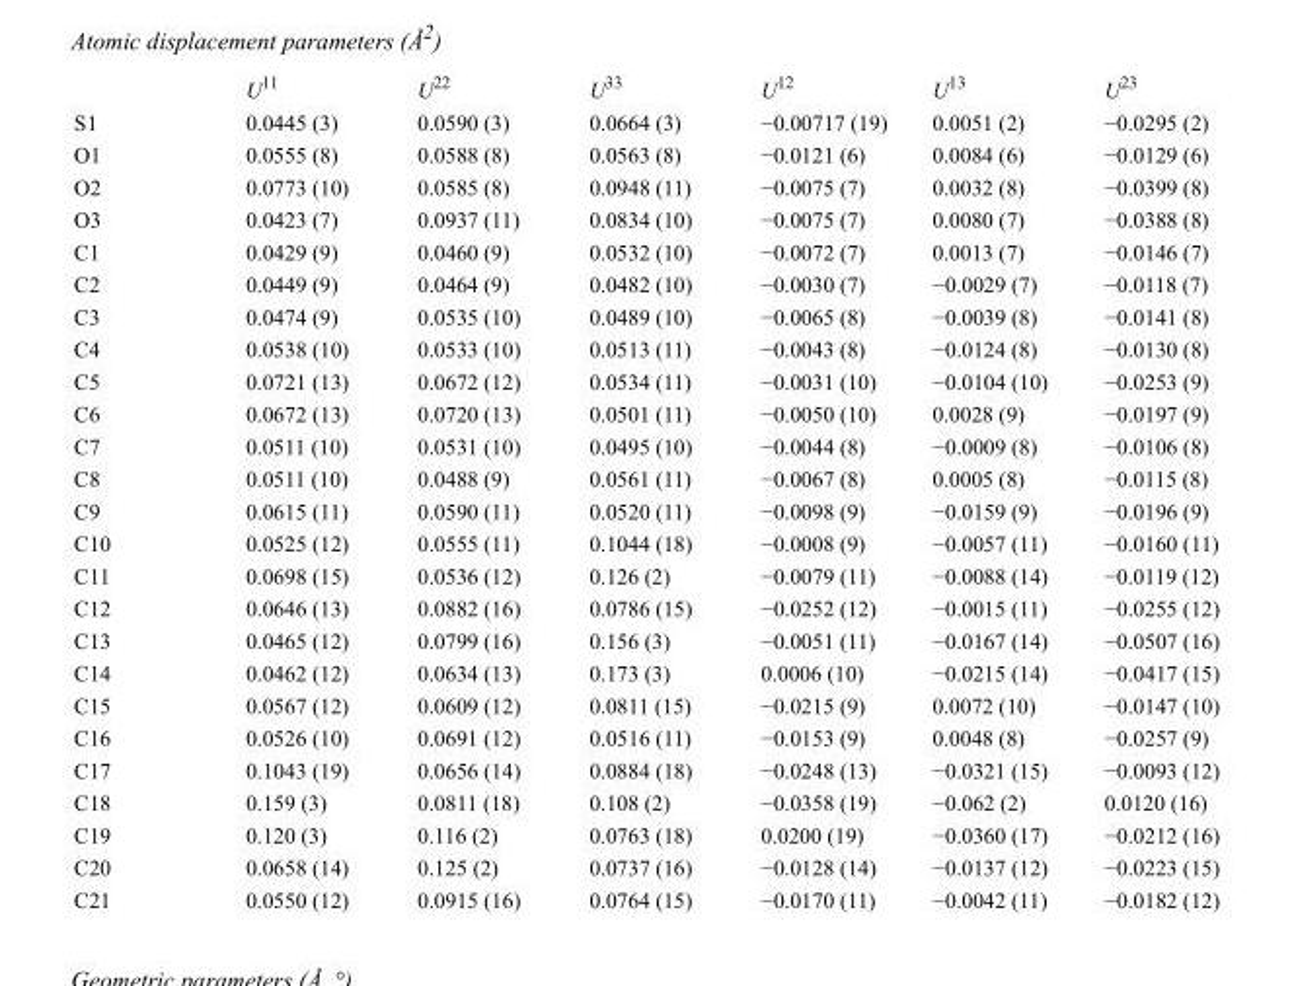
<table><thead><tr><td></td><td>U<sup>11</sup></td><td>U<sup>22</sup></td><td>U<sup>33</sup></td><td>U<sup>12</sup></td><td>U<sup>13</sup></td><td>U<sup>23</sup></td></tr></thead><tbody><tr><td>S1</td><td>0.0445 (3)</td><td>0.0590 (3)</td><td>0.0664 (3)</td><td>−0.00717 (19)</td><td>0.0051 (2)</td><td>−0.0295 (2)</td></tr><tr><td>O1</td><td>0.0555 (8)</td><td>0.0588 (8)</td><td>0.0563 (8)</td><td>−0.0121 (6)</td><td>0.0084 (6)</td><td>−0.0129 (6)</td></tr><tr><td>O2</td><td>0.0773 (10)</td><td>0.0585 (8)</td><td>0.0948 (11)</td><td>−0.0075 (7)</td><td>0.0032 (8)</td><td>−0.0399 (8)</td></tr><tr><td>O3</td><td>0.0423 (7)</td><td>0.0937 (11)</td><td>0.0834 (10)</td><td>−0.0075 (7)</td><td>0.0080 (7)</td><td>−0.0388 (8)</td></tr><tr><td>C1</td><td>0.0429 (9)</td><td>0.0460 (9)</td><td>0.0532 (10)</td><td>−0.0072 (7)</td><td>0.0013 (7)</td><td>−0.0146 (7)</td></tr><tr><td>C2</td><td>0.0449 (9)</td><td>0.0464 (9)</td><td>0.0482 (10)</td><td>−0.0030 (7)</td><td>−0.0029 (7)</td><td>−0.0118 (7)</td></tr><tr><td>C3</td><td>0.0474 (9)</td><td>0.0535 (10)</td><td>0.0489 (10)</td><td>−0.0065 (8)</td><td>−0.0039 (8)</td><td>−0.0141 (8)</td></tr><tr><td>C4</td><td>0.0538 (10)</td><td>0.0533 (10)</td><td>0.0513 (11)</td><td>−0.0043 (8)</td><td>−0.0124 (8)</td><td>−0.0130 (8)</td></tr><tr><td>C5</td><td>0.0721 (13)</td><td>0.0672 (12)</td><td>0.0534 (11)</td><td>−0.0031 (10)</td><td>−0.0104 (10)</td><td>−0.0253 (9)</td></tr><tr><td>C6</td><td>0.0672 (13)</td><td>0.0720 (13)</td><td>0.0501 (11)</td><td>−0.0050 (10)</td><td>0.0028 (9)</td><td>−0.0197 (9)</td></tr><tr><td>C7</td><td>0.0511 (10)</td><td>0.0531 (10)</td><td>0.0495 (10)</td><td>−0.0044 (8)</td><td>−0.0009 (8)</td><td>−0.0106 (8)</td></tr><tr><td>C8</td><td>0.0511 (10)</td><td>0.0488 (9)</td><td>0.0561 (11)</td><td>−0.0067 (8)</td><td>0.0005 (8)</td><td>−0.0115 (8)</td></tr><tr><td>C9</td><td>0.0615 (11)</td><td>0.0590 (11)</td><td>0.0520 (11)</td><td>−0.0098 (9)</td><td>−0.0159 (9)</td><td>−0.0196 (9)</td></tr><tr><td>C10</td><td>0.0525 (12)</td><td>0.0555 (11)</td><td>0.1044 (18)</td><td>−0.0008 (9)</td><td>−0.0057 (11)</td><td>−0.0160 (11)</td></tr><tr><td>C11</td><td>0.0698 (15)</td><td>0.0536 (12)</td><td>0.126 (2)</td><td>−0.0079 (11)</td><td>−0.0088 (14)</td><td>−0.0119 (12)</td></tr><tr><td>C12</td><td>0.0646 (13)</td><td>0.0882 (16)</td><td>0.0786 (15)</td><td>−0.0252 (12)</td><td>−0.0015 (11)</td><td>−0.0255 (12)</td></tr><tr><td>C13</td><td>0.0465 (12)</td><td>0.0799 (16)</td><td>0.156 (3)</td><td>−0.0051 (11)</td><td>−0.0167 (14)</td><td>−0.0507 (16)</td></tr><tr><td>C14</td><td>0.0462 (12)</td><td>0.0634 (13)</td><td>0.173 (3)</td><td>0.0006 (10)</td><td>−0.0215 (14)</td><td>−0.0417 (15)</td></tr><tr><td>C15</td><td>0.0567 (12)</td><td>0.0609 (12)</td><td>0.0811 (15)</td><td>−0.0215 (9)</td><td>0.0072 (10)</td><td>−0.0147 (10)</td></tr><tr><td>C16</td><td>0.0526 (10)</td><td>0.0691 (12)</td><td>0.0516 (11)</td><td>−0.0153 (9)</td><td>0.0048 (8)</td><td>−0.0257 (9)</td></tr><tr><td>C17</td><td>0.1043 (19)</td><td>0.0656 (14)</td><td>0.0884 (18)</td><td>−0.0248 (13)</td><td>−0.0321 (15)</td><td>−0.0093 (12)</td></tr><tr><td>C18</td><td>0.159 (3)</td><td>0.0811 (18)</td><td>0.108 (2)</td><td>−0.0358 (19)</td><td>−0.062 (2)</td><td>0.0120 (16)</td></tr><tr><td>C19</td><td>0.120 (3)</td><td>0.116 (2)</td><td>0.0763 (18)</td><td>0.0200 (19)</td><td>−0.0360 (17)</td><td>−0.0212 (16)</td></tr><tr><td>C20</td><td>0.0658 (14)</td><td>0.125 (2)</td><td>0.0737 (16)</td><td>−0.0128 (14)</td><td>−0.0137 (12)</td><td>−0.0223 (15)</td></tr><tr><td>C21</td><td>0.0550 (12)</td><td>0.0915 (16)</td><td>0.0764 (15)</td><td>−0.0170 (11)</td><td>−0.0042 (11)</td><td>−0.0182 (12)</td></tr></tbody></table>